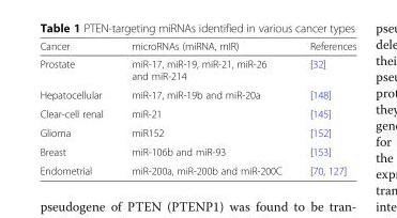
<table><thead><tr><td>Cancer</td><td>microRNAs (miRNA, mIR)</td><td>References</td></tr></thead><tbody><tr><td>Prostate</td><td>miR-17, miR-19, miR-21, miR-26 and miR-214</td><td>[32]</td></tr><tr><td>Hepatocellular</td><td>miR-17, miR-19b and miR-20a</td><td>[148]</td></tr><tr><td>Clear-cell renal</td><td>miR-21</td><td>[145]</td></tr><tr><td>Glioma</td><td>miR152</td><td>[152]</td></tr><tr><td>Breast</td><td>miR-106b and miR-93</td><td>[153]</td></tr><tr><td>Endometrial</td><td>miR-200a, miR-200b and miR-200C</td><td>[70, 127]</td></tr></tbody></table>